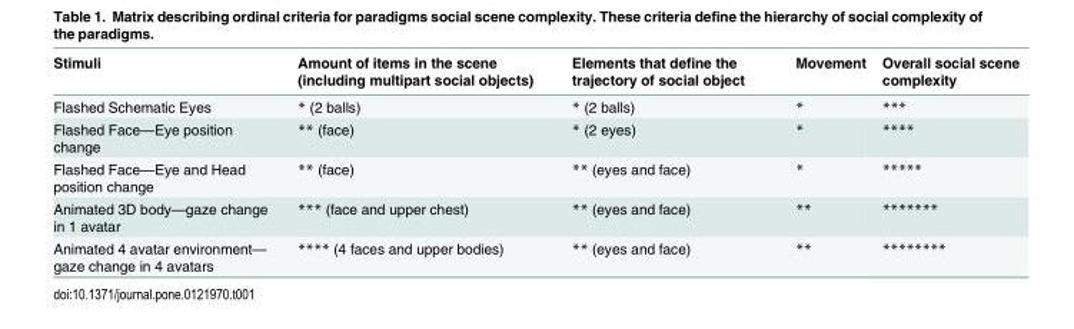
<table><thead><tr><td>Stimuli</td><td>Amount of items in the scene (including multipart social objects)</td><td>Elements that define the trajectory of social object</td><td>Movement</td><td>Overall social scene complexity</td></tr></thead><tbody><tr><td>Flashed Schematic Eyes</td><td>* (2 balls)</td><td>* (2 balls)</td><td>*</td><td>***</td></tr><tr><td>Flashed Face—Eye position change</td><td>** (face)</td><td>* (2 eyes)</td><td>*</td><td>****</td></tr><tr><td>Flashed Face—Eye and Head position change</td><td>** (face)</td><td>** (eyes and face)</td><td>*</td><td>*****</td></tr><tr><td>Animated 3D body—gaze change in 1 avatar</td><td>*** (face and upper chest)</td><td>** (eyes and face)</td><td>**</td><td>*******</td></tr><tr><td>Animated 4 avatar environment— gaze change in 4 avatars</td><td>**** (4 faces and upper bodies)</td><td>** (eyes and face)</td><td>**</td><td>********</td></tr></tbody></table>